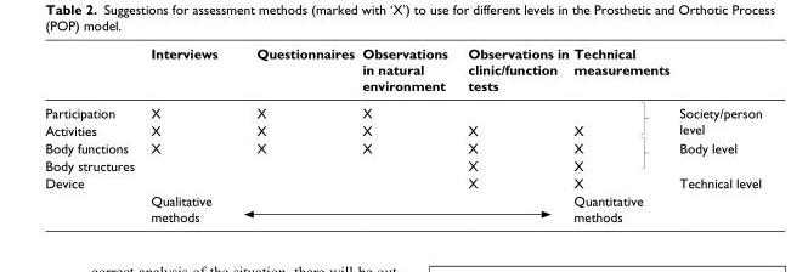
<table><thead><tr><td></td><td>Interviews</td><td>Questionnaires</td><td>Observations in natural environment</td><td>Observations in clinic/function tests</td><td>Technical measurements</td><td></td></tr></thead><tbody><tr><td>Participation</td><td>X</td><td>X</td><td>X</td><td></td><td></td><td rowspan="2">Society/person level</td></tr><tr><td>Activities</td><td>X</td><td>X</td><td>X</td><td>X</td><td>X</td></tr><tr><td>Body functions</td><td>X</td><td>X</td><td>X</td><td>X</td><td>X</td><td rowspan="2">Body level</td></tr><tr><td>Body structures</td><td></td><td></td><td></td><td>X</td><td>X</td></tr><tr><td rowspan="2">Device</td><td></td><td></td><td></td><td>X</td><td>X</td><td>Technical level</td></tr><tr><td>Qualitative methods</td><td colspan="3"></td><td>Quantitative methods</td><td></td></tr></tbody></table>